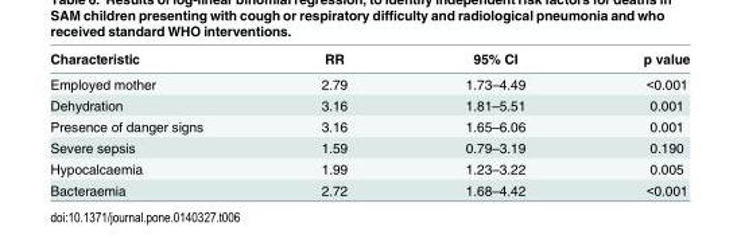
<table><thead><tr><td>Characteristic</td><td>RR</td><td>95% CI</td><td>p value</td></tr></thead><tbody><tr><td>Employed mother</td><td>2.79</td><td>1.73–4.49</td><td>&lt;0.001</td></tr><tr><td>Dehydration</td><td>3.16</td><td>1.81–5.51</td><td>0.001</td></tr><tr><td>Presence of danger signs</td><td>3.16</td><td>1.65–6.06</td><td>0.001</td></tr><tr><td>Severe sepsis</td><td>1.59</td><td>0.79–3.19</td><td>0.190</td></tr><tr><td>Hypocalcaemia</td><td>1.99</td><td>1.23–3.22</td><td>0.005</td></tr><tr><td>Bacteraemia</td><td>2.72</td><td>1.68–4.42</td><td>&lt;0.001</td></tr></tbody></table>